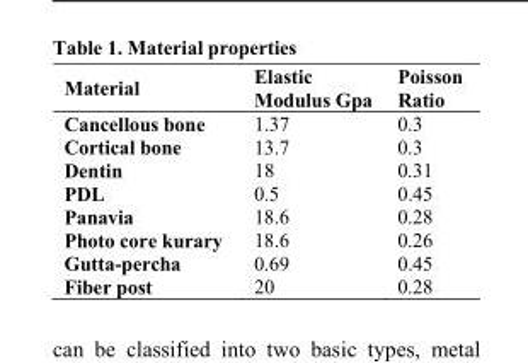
<table><thead><tr><td>Material</td><td>Elastic Modulus Gpa</td><td>Poisson Ratio</td></tr></thead><tbody><tr><td>Cancellous bone</td><td>1.37</td><td>0.3</td></tr><tr><td>Cortical bone</td><td>13.7</td><td>0.3</td></tr><tr><td>Dentin</td><td>18</td><td>0.31</td></tr><tr><td>PDL</td><td>0.5</td><td>0.45</td></tr><tr><td>Panavia</td><td>18.6</td><td>0.28</td></tr><tr><td>Photo core kurary</td><td>18.6</td><td>0.26</td></tr><tr><td>Gutta-percha</td><td>0.69</td><td>0.45</td></tr><tr><td>Fiber post</td><td>20</td><td>0.28</td></tr></tbody></table>